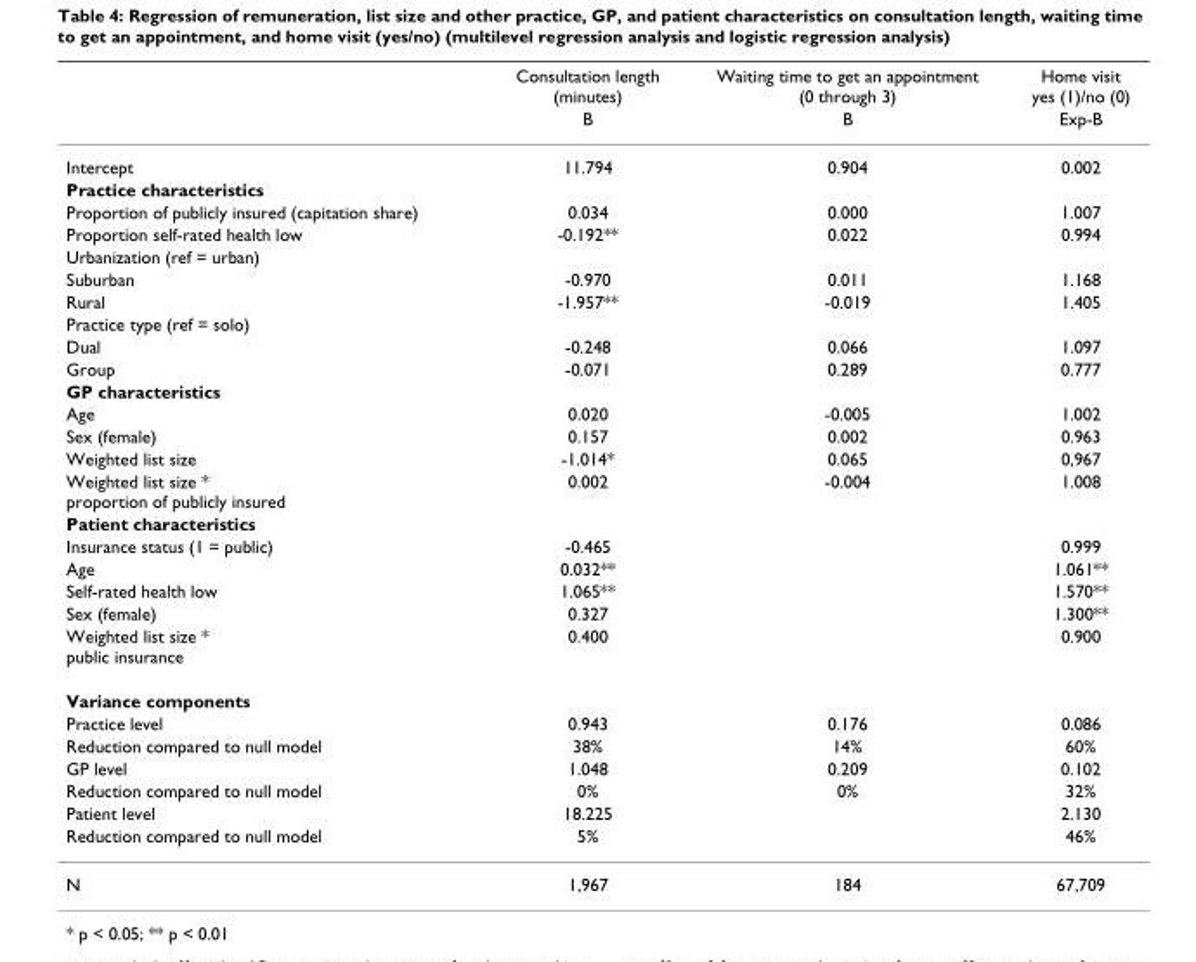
<table><thead><tr><td rowspan="2"></td><td rowspan="2">Consultation length (minutes) B</td><td rowspan="2">Waiting time to get an appointment (0 through 3) B</td><td rowspan="2">Home visit yes (1)/no (0) Exp-B</td></tr><tr></tr></thead><tbody><tr><td>Intercept</td><td>11.794</td><td>0.904</td><td>0.002</td></tr><tr><td colspan="4">Practice characteristics</td></tr><tr><td>Proportion of publicly insured (capitation share)</td><td>0.034</td><td>0.000</td><td>1.007</td></tr><tr><td>Proportion self-rated health low</td><td>-0.192**</td><td>0.022</td><td>0.994</td></tr><tr><td colspan="4">Urbanization (ref = urban)</td></tr><tr><td>Suburban</td><td>-0.970</td><td>0.011</td><td>1.168</td></tr><tr><td>Rural</td><td>-1.957**</td><td>-0.019</td><td>1.405</td></tr><tr><td colspan="4">Practice type (ref = solo)</td></tr><tr><td>Dual</td><td>-0.248</td><td>0.066</td><td>1.097</td></tr><tr><td>Group</td><td>-0.071</td><td>0.289</td><td>0.777</td></tr><tr><td colspan="4">GP characteristics</td></tr><tr><td>Age</td><td>0.020</td><td>-0.005</td><td>1.002</td></tr><tr><td>Sex (female)</td><td>0.157</td><td>0.002</td><td>0.963</td></tr><tr><td>Weighted list size</td><td>-1.014*</td><td>0.065</td><td>0,967</td></tr><tr><td>Weighted list size * proportion of publicly insured</td><td>0.002</td><td>-0.004</td><td>1.008</td></tr><tr><td colspan="4">Patient characteristics</td></tr><tr><td>Insurance status (1 = public)</td><td>-0.465</td><td></td><td>0.999</td></tr><tr><td>Age</td><td>0.032**</td><td></td><td>1.061**</td></tr><tr><td>Self-rated health low</td><td>1.065**</td><td></td><td>1.570**</td></tr><tr><td>Sex (female)</td><td>0.327</td><td></td><td>1.300**</td></tr><tr><td>Weighted list size * public insurance</td><td>0.400</td><td></td><td>0.900</td></tr><tr><td colspan="4">Variance components</td></tr><tr><td>Practice level</td><td>0.943</td><td>0.176</td><td>0.086</td></tr><tr><td>Reduction compared to null model</td><td>38%</td><td>14%</td><td>60%</td></tr><tr><td>GP level</td><td>1.048</td><td>0.209</td><td>0.102</td></tr><tr><td>Reduction compared to null model</td><td>0%</td><td>0%</td><td>32%</td></tr><tr><td>Patient level</td><td>18.225</td><td></td><td>2.130</td></tr><tr><td>Reduction compared to null model</td><td>5%</td><td></td><td>46%</td></tr><tr><td>N</td><td>1,967</td><td>184</td><td>67,709</td></tr></tbody></table>